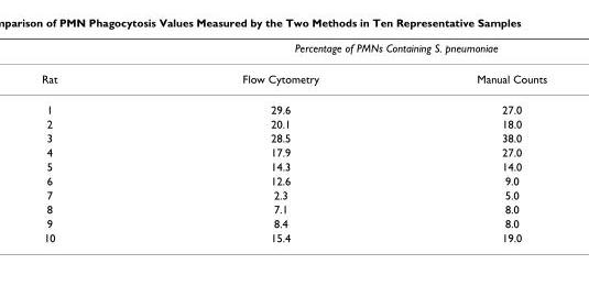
<table><thead><tr><td rowspan="2">Rat</td><td colspan="2">Percentage of PMNs Containing S. pneumoniae</td></tr><tr><td>Flow Cytometry</td><td>Manual Counts</td></tr></thead><tbody><tr><td>1</td><td>29.6</td><td>27.0</td></tr><tr><td>2</td><td>20.1</td><td>18.0</td></tr><tr><td>3</td><td>28.5</td><td>38.0</td></tr><tr><td>4</td><td>17.9</td><td>27.0</td></tr><tr><td>5</td><td>14.3</td><td>14.0</td></tr><tr><td>6</td><td>12.6</td><td>9.0</td></tr><tr><td>7</td><td>2.3</td><td>5.0</td></tr><tr><td>8</td><td>7.1</td><td>8.0</td></tr><tr><td>9</td><td>8.4</td><td>8.0</td></tr><tr><td>10</td><td>15.4</td><td>19.0</td></tr></tbody></table>